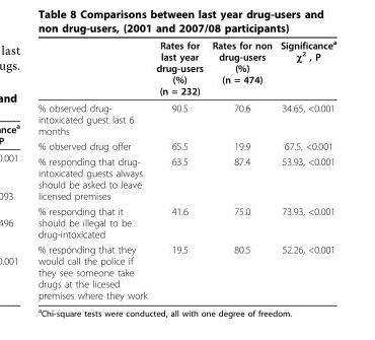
<table><thead><tr><td></td><td>Rates for last year drug-users (%) (n = 232)</td><td>Rates for non drug-users (%) (n = 474)</td><td>Significance<sup>a</sup> χ<sup>2</sup> , P</td></tr></thead><tbody><tr><td>% observed drug- intoxicated guest last 6 months</td><td>90.5</td><td>70.6</td><td>34.65, &lt;0.001</td></tr><tr><td>% observed drug offer</td><td>65.5</td><td>19.9</td><td>67.5, &lt;0.001</td></tr><tr><td>% responding that drug- intoxicated guests always should be asked to leave licensed premises</td><td>63.5</td><td>87.4</td><td>53.93, &lt;0.001</td></tr><tr><td>% responding that it should be illegal to be drug-intoxicated</td><td>41.6</td><td>75.0</td><td>73.93, &lt;0.001</td></tr><tr><td>% responding that they would call the police if they see someone take drugs at the licesed premises where they work</td><td>19.5</td><td>80.5</td><td>52.26, &lt;0.001</td></tr></tbody></table>